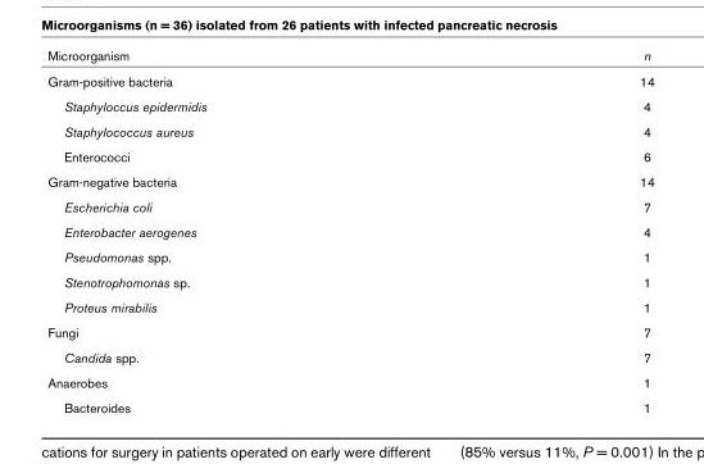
<table><thead><tr><td>Microorganism</td><td>n</td></tr></thead><tbody><tr><td>Gram-positive bacteria</td><td>14</td></tr><tr><td>Staphyloccus epidermidis</td><td>4</td></tr><tr><td>Staphylococcus aureus</td><td>4</td></tr><tr><td>Enterococci</td><td>6</td></tr><tr><td>Gram-negative bacteria</td><td>14</td></tr><tr><td>Escherichia coli</td><td>7</td></tr><tr><td>Enterobacter aerogenes</td><td>4</td></tr><tr><td>Pseudomonas spp.</td><td>1</td></tr><tr><td>Stenotrophomonas sp.</td><td>1</td></tr><tr><td>Proteus mirabilis</td><td>1</td></tr><tr><td>Fungi</td><td>7</td></tr><tr><td>Candida spp.</td><td>7</td></tr><tr><td>Anaerobes</td><td>1</td></tr><tr><td>Bacteroides</td><td>1</td></tr></tbody></table>